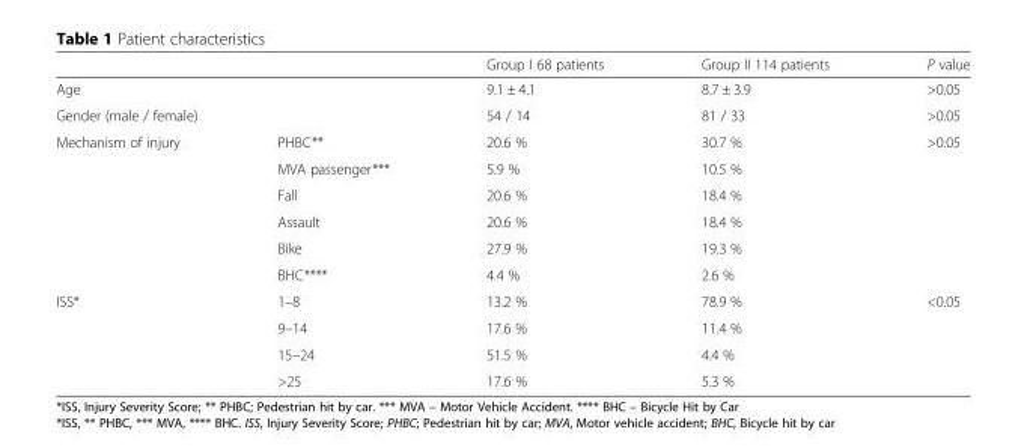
<table><thead><tr><td></td><td></td><td>Group I 68 patients</td><td>Group II 114 patients</td><td>P value</td></tr></thead><tbody><tr><td colspan="2">Age</td><td>9.1 ± 4.1</td><td>8.7 ± 3.9</td><td>&gt;0.05</td></tr><tr><td colspan="2">Gender (male / female)</td><td>54 / 14</td><td>81 / 33</td><td>&gt;0.05</td></tr><tr><td rowspan="6">Mechanism of injury</td><td>PHBC**</td><td>20.6 %</td><td>30.7 %</td><td rowspan="6">&gt;0.05</td></tr><tr><td>MVA passenger***</td><td>5.9 %</td><td>10.5 %</td></tr><tr><td>Fall</td><td>20.6 %</td><td>18.4 %</td></tr><tr><td>Assault</td><td>20.6 %</td><td>18.4 %</td></tr><tr><td>Bike</td><td>27.9 %</td><td>19.3 %</td></tr><tr><td>BHC****</td><td>4.4 %</td><td>2.6 %</td></tr><tr><td rowspan="4">ISS*</td><td>1–8</td><td>13.2 %</td><td>78.9 %</td><td rowspan="4">&lt;0.05</td></tr><tr><td>9–14</td><td>17.6 %</td><td>11.4 %</td></tr><tr><td>15–24</td><td>51.5 %</td><td>4.4 %</td></tr><tr><td>&gt;25</td><td>17.6 %</td><td>5.3 %</td></tr></tbody></table>